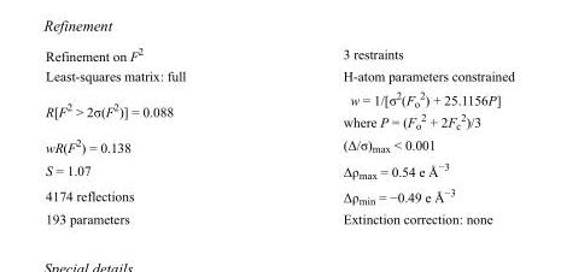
<table><tbody><tr><td>Refinement on F<sup>2</sup></td><td>3 restraints</td></tr><tr><td>Least-squares matrix: full</td><td>H-atom parameters constrained</td></tr><tr><td>R[F<sup>2</sup> &gt; 2σ(F<sup>2</sup>)] = 0.088</td><td>w = 1/[σ<sup>2</sup>(F<sub>o</sub> <sup>2</sup>) + 25.1156P] where P = (F<sub>o</sub> <sup>2</sup> + 2F<sub>c</sub> <sup>2</sup>)/3</td></tr><tr><td>wR(F<sup>2</sup>) = 0.138</td><td>(Δ/σ)<sub>max</sub> &lt; 0.001</td></tr><tr><td>S = 1.07</td><td>Δρ<sub>max</sub> = 0.54 e Å<sup>−3</sup></td></tr><tr><td>4174 reflections</td><td>Δρ<sub>min</sub> = −0.49 e Å<sup>−3</sup></td></tr><tr><td>193 parameters</td><td>Extinction correction: none</td></tr></tbody></table>